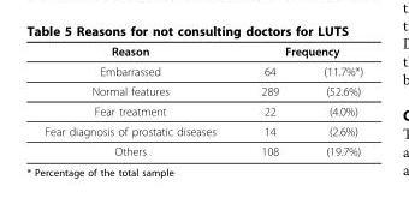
<table><thead><tr><td rowspan="2">Reason Embarrassed</td><td colspan="2">Frequency</td></tr><tr><td>64</td><td>(11.7%*)</td></tr></thead><tbody><tr><td>Normal features</td><td>289</td><td>(52.6%)</td></tr><tr><td>Fear treatment</td><td>22</td><td>(4.0%)</td></tr><tr><td>Fear diagnosis of prostatic diseases</td><td>14</td><td>(2.6%)</td></tr><tr><td>Others</td><td>108</td><td>(19.7%)</td></tr></tbody></table>